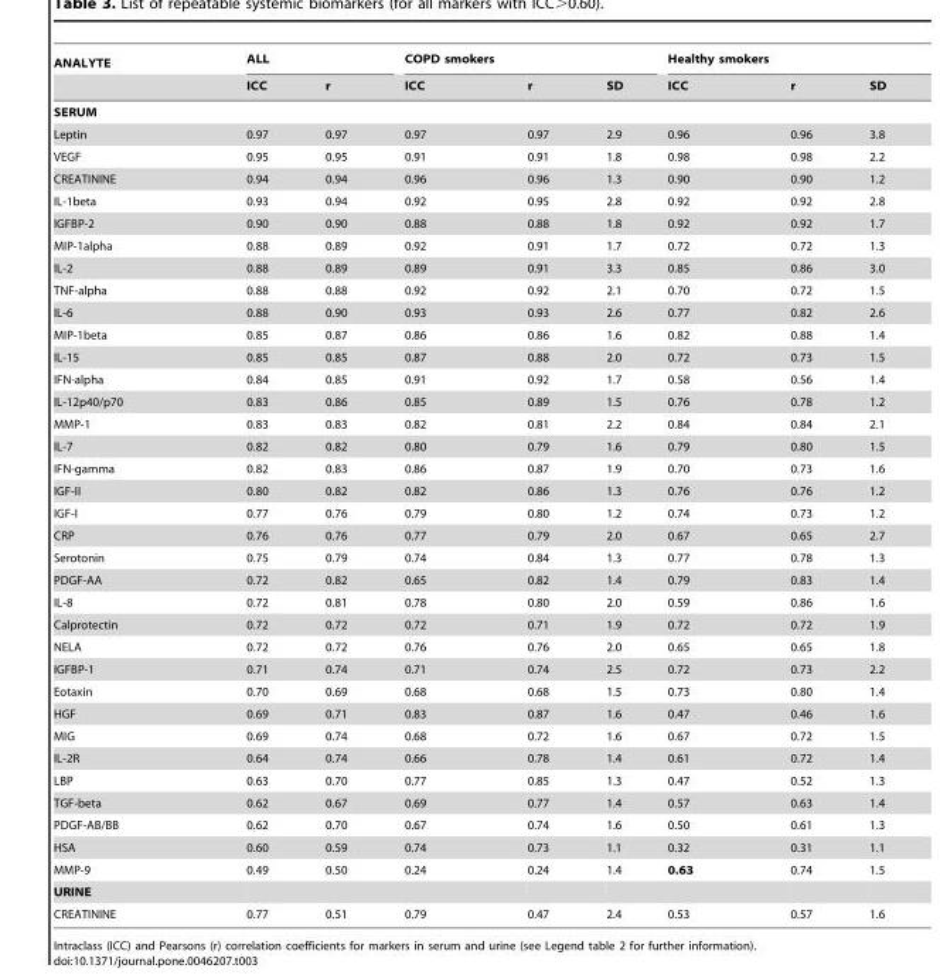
<table><thead><tr><td rowspan="2">ANALYTE</td><td colspan="2">ALL</td><td colspan="3">COPD smokers</td><td colspan="3">Healthy smokers</td></tr><tr><td>ICC</td><td>r</td><td>ICC</td><td>r</td><td>SD</td><td>ICC</td><td>r</td><td>SD</td></tr></thead><tbody><tr><td colspan="9">SERUM</td></tr><tr><td>Leptin</td><td>0.97</td><td>0.97</td><td>0.97</td><td>0.97</td><td>2.9</td><td>0.96</td><td>0.96</td><td>3.8</td></tr><tr><td>VEGF</td><td>0.95</td><td>0.95</td><td>0.91</td><td>0.91</td><td>1.8</td><td>0.98</td><td>0.98</td><td>2.2</td></tr><tr><td>CREATININE</td><td>0.94</td><td>0.94</td><td>0.96</td><td>0.96</td><td>1.3</td><td>0.90</td><td>0.90</td><td>1.2</td></tr><tr><td>IL-1beta</td><td>0.93</td><td>0.94</td><td>0.92</td><td>0.95</td><td>2.8</td><td>0.92</td><td>0.92</td><td>2.8</td></tr><tr><td>IGFBP-2</td><td>0.90</td><td>0.90</td><td>0.88</td><td>0.88</td><td>1.8</td><td>0.92</td><td>0.92</td><td>1.7</td></tr><tr><td>MIP-1alpha</td><td>0.88</td><td>0.89</td><td>0.92</td><td>0.91</td><td>1.7</td><td>0.72</td><td>0.72</td><td>1.3</td></tr><tr><td>IL-2</td><td>0.88</td><td>0.89</td><td>0.89</td><td>0.91</td><td>3.3</td><td>0.85</td><td>0.86</td><td>3.0</td></tr><tr><td>TNF-alpha</td><td>0.88</td><td>0.88</td><td>0.92</td><td>0.92</td><td>2.1</td><td>0.70</td><td>0.72</td><td>1.5</td></tr><tr><td>IL-6</td><td>0.88</td><td>0.90</td><td>0.93</td><td>0.93</td><td>2.6</td><td>0.77</td><td>0.82</td><td>2.6</td></tr><tr><td>MIP-1beta</td><td>0.85</td><td>0.87</td><td>0.86</td><td>0.86</td><td>1.6</td><td>0.82</td><td>0.88</td><td>1.4</td></tr><tr><td>IL-15</td><td>0.85</td><td>0.85</td><td>0.87</td><td>0.88</td><td>2.0</td><td>0.72</td><td>0.73</td><td>1.5</td></tr><tr><td>IFN-alpha</td><td>0.84</td><td>0.85</td><td>0.91</td><td>0.92</td><td>1.7</td><td>0.58</td><td>0.56</td><td>1.4</td></tr><tr><td>IL-12p40/p70</td><td>0.83</td><td>0.86</td><td>0.85</td><td>0.89</td><td>1.5</td><td>0.76</td><td>0.78</td><td>1.2</td></tr><tr><td>MMP-1</td><td>0.83</td><td>0.83</td><td>0.82</td><td>0.81</td><td>2.2</td><td>0.84</td><td>0.84</td><td>2.1</td></tr><tr><td>IL-7</td><td>0.82</td><td>0.82</td><td>0.80</td><td>0.79</td><td>1.6</td><td>0.79</td><td>0.80</td><td>1.5</td></tr><tr><td>IFN-gamma</td><td>0.82</td><td>0.83</td><td>0.86</td><td>0.87</td><td>1.9</td><td>0.70</td><td>0.73</td><td>1.6</td></tr><tr><td>IGF-II</td><td>0.80</td><td>0.82</td><td>0.82</td><td>0.86</td><td>1.3</td><td>0.76</td><td>0.76</td><td>1.2</td></tr><tr><td>IGF-I</td><td>0.77</td><td>0.76</td><td>0.79</td><td>0.80</td><td>1.2</td><td>0.74</td><td>0.73</td><td>1.2</td></tr><tr><td>CRP</td><td>0.76</td><td>0.76</td><td>0.77</td><td>0.79</td><td>2.0</td><td>0.67</td><td>0.65</td><td>2.7</td></tr><tr><td>Serotonin</td><td>0.75</td><td>0.79</td><td>0.74</td><td>0.84</td><td>1.3</td><td>0.77</td><td>0.78</td><td>1.3</td></tr><tr><td>PDGF-AA</td><td>0.72</td><td>0.82</td><td>0.65</td><td>0.82</td><td>1.4</td><td>0.79</td><td>0.83</td><td>1.4</td></tr><tr><td>IL-8</td><td>0.72</td><td>0.81</td><td>0.78</td><td>0.80</td><td>2.0</td><td>0.59</td><td>0.86</td><td>1.6</td></tr><tr><td>Calprotectin</td><td>0.72</td><td>0.72</td><td>0.72</td><td>0.71</td><td>1.9</td><td>0.72</td><td>0.72</td><td>1.9</td></tr><tr><td>NELA</td><td>0.72</td><td>0.72</td><td>0.76</td><td>0.76</td><td>2.0</td><td>0.65</td><td>0.65</td><td>1.8</td></tr><tr><td>IGFBP-1</td><td>0.71</td><td>0.74</td><td>0.71</td><td>0.74</td><td>2.5</td><td>0.72</td><td>0.73</td><td>2.2</td></tr><tr><td>Eotaxin</td><td>0.70</td><td>0.69</td><td>0.68</td><td>0.68</td><td>1.5</td><td>0.73</td><td>0.80</td><td>1.4</td></tr><tr><td>HGF</td><td>0.69</td><td>0.71</td><td>0.83</td><td>0.87</td><td>1.6</td><td>0.47</td><td>0.46</td><td>1.6</td></tr><tr><td>MIG</td><td>0.69</td><td>0.74</td><td>0.68</td><td>0.72</td><td>1.6</td><td>0.67</td><td>0.72</td><td>1.5</td></tr><tr><td>IL-2R</td><td>0.64</td><td>0.74</td><td>0.66</td><td>0.78</td><td>1.4</td><td>0.61</td><td>0.72</td><td>1.4</td></tr><tr><td>LBP</td><td>0.63</td><td>0.70</td><td>0.77</td><td>0.85</td><td>1.3</td><td>0.47</td><td>0.52</td><td>1.3</td></tr><tr><td>TGF-beta</td><td>0.62</td><td>0.67</td><td>0.69</td><td>0.77</td><td>1.4</td><td>0.57</td><td>0.63</td><td>1.4</td></tr><tr><td>PDGF-AB/BB</td><td>0.62</td><td>0.70</td><td>0.67</td><td>0.74</td><td>1.6</td><td>0.50</td><td>0.61</td><td>1.3</td></tr><tr><td>HSA</td><td>0.60</td><td>0.59</td><td>0.74</td><td>0.73</td><td>1.1</td><td>0.32</td><td>0.31</td><td>1.1</td></tr><tr><td>MMP-9</td><td>0.49</td><td>0.50</td><td>0.24</td><td>0.24</td><td>1.4</td><td>0.63</td><td>0.74</td><td>1.5</td></tr><tr><td colspan="9">URINE</td></tr><tr><td>CREATININE</td><td>0.77</td><td>0.51</td><td>0.79</td><td>0.47</td><td>2.4</td><td>0.53</td><td>0.57</td><td>1.6</td></tr></tbody></table>